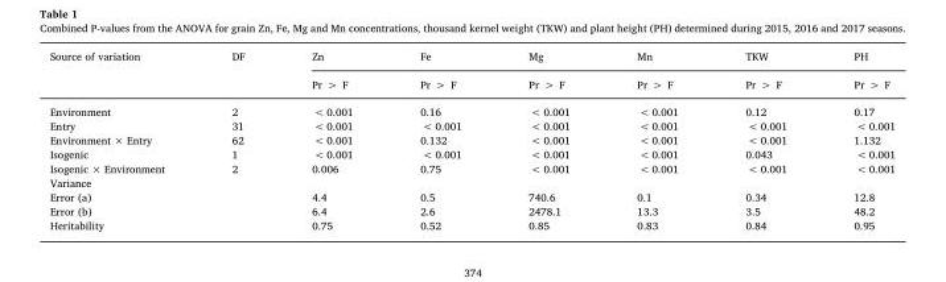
<table><thead><tr><td rowspan="2">Source of variation</td><td rowspan="2">DF</td><td rowspan="2">Zn Pr &gt; F</td><td rowspan="2">Fe Pr &gt; F</td><td rowspan="2">Mg Pr &gt; F</td><td rowspan="2">Mn Pr &gt; F</td><td rowspan="2">TKW Pr &gt; F</td><td rowspan="2">PH Pr &gt; F</td></tr><tr></tr></thead><tbody><tr><td>Environment</td><td>2</td><td>&lt; 0.001</td><td>0.16</td><td>&lt; 0.001</td><td>&lt; 0.001</td><td>0.12</td><td>0.17</td></tr><tr><td>Entry</td><td>31</td><td>&lt; 0.001</td><td>&lt; 0.001</td><td>&lt; 0.001</td><td>&lt; 0.001</td><td>&lt; 0.001</td><td>&lt; 0.001</td></tr><tr><td>Environment × Entry</td><td>62</td><td>&lt; 0.001</td><td>0.132</td><td>&lt; 0.001</td><td>&lt; 0.001</td><td>&lt; 0.001</td><td>1.132</td></tr><tr><td>Isogenic</td><td>1</td><td>&lt; 0.001</td><td>&lt; 0.001</td><td>&lt; 0.001</td><td>&lt; 0.001</td><td>0.043</td><td>&lt; 0.001</td></tr><tr><td>Isogenic × Environment</td><td>2</td><td>0.006</td><td>0.75</td><td>&lt; 0.001</td><td>&lt; 0.001</td><td>&lt; 0.001</td><td>&lt; 0.001</td></tr><tr><td colspan="8">Variance</td></tr><tr><td>Error (a)</td><td></td><td>4.4</td><td>0.5</td><td>740.6</td><td>0.1</td><td>0.34</td><td>12.8</td></tr><tr><td>Error (b)</td><td></td><td>6.4</td><td>2.6</td><td>2478.1</td><td>13.3</td><td>3.5</td><td>48.2</td></tr><tr><td>Heritability</td><td></td><td>0.75</td><td>0.52</td><td>0.85</td><td>0.83</td><td>0.84</td><td>0.95</td></tr></tbody></table>